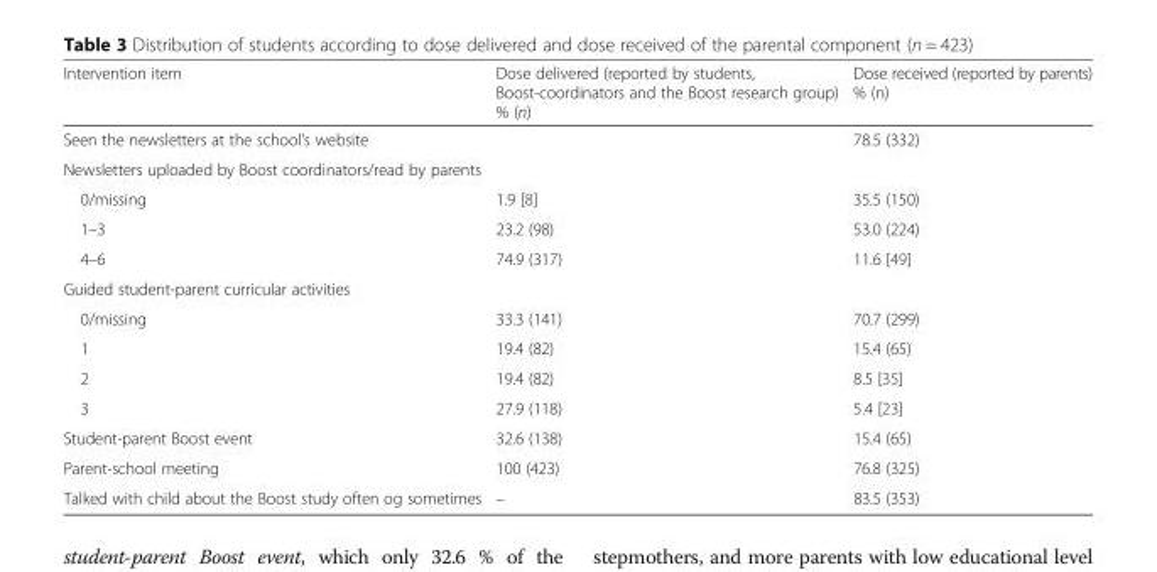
<table><thead><tr><td>Intervention item</td><td>Dose delivered (reported by students, Boost-coordinators and the Boost research group) % (n)</td><td>Dose received (reported by parents) % (n)</td></tr></thead><tbody><tr><td>Seen the newsletters at the school’s website</td><td></td><td>78.5 (332)</td></tr><tr><td colspan="3">Newsletters uploaded by Boost coordinators/read by parents</td></tr><tr><td>0/missing</td><td>1.9 [8]</td><td>35.5 (150)</td></tr><tr><td>1–3</td><td>23.2 (98)</td><td>53.0 (224)</td></tr><tr><td>4–6</td><td>74.9 (317)</td><td>11.6 [49]</td></tr><tr><td colspan="3">Guided student-parent curricular activities</td></tr><tr><td>0/missing</td><td>33.3 (141)</td><td>70.7 (299)</td></tr><tr><td>1</td><td>19.4 (82)</td><td>15.4 (65)</td></tr><tr><td>2</td><td>19.4 (82)</td><td>8.5 [35]</td></tr><tr><td>3</td><td>27.9 (118)</td><td>5.4 [23]</td></tr><tr><td>Student-parent Boost event</td><td>32.6 (138)</td><td>15.4 (65)</td></tr><tr><td>Parent-school meeting</td><td>100 (423)</td><td>76.8 (325)</td></tr><tr><td>Talked with child about the Boost study often og sometimes</td><td>–</td><td>83.5 (353)</td></tr></tbody></table>